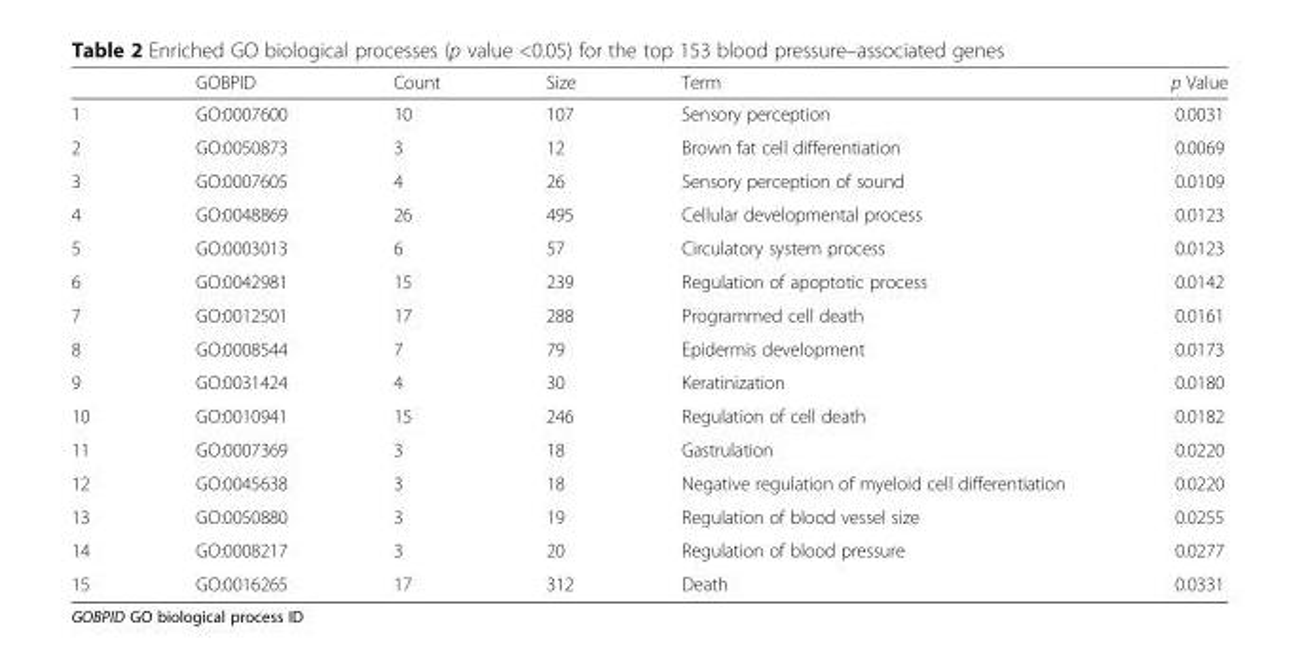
<table><thead><tr><td></td><td>GOBPID</td><td>Count</td><td>Size</td><td>Term</td><td>p Value</td></tr></thead><tbody><tr><td>1</td><td>GO:0007600</td><td>10</td><td>107</td><td>Sensory perception</td><td>0.0031</td></tr><tr><td>2</td><td>GO:0050873</td><td>3</td><td>12</td><td>Brown fat cell differentiation</td><td>0.0069</td></tr><tr><td>3</td><td>GO:0007605</td><td>4</td><td>26</td><td>Sensory perception of sound</td><td>0.0109</td></tr><tr><td>4</td><td>GO:0048869</td><td>26</td><td>495</td><td>Cellular developmental process</td><td>0.0123</td></tr><tr><td>5</td><td>GO:0003013</td><td>6</td><td>57</td><td>Circulatory system process</td><td>0.0123</td></tr><tr><td>6</td><td>GO:0042981</td><td>15</td><td>239</td><td>Regulation of apoptotic process</td><td>0.0142</td></tr><tr><td>7</td><td>GO:0012501</td><td>17</td><td>288</td><td>Programmed cell death</td><td>0.0161</td></tr><tr><td>8</td><td>GO:0008544</td><td>7</td><td>79</td><td>Epidermis development</td><td>0.0173</td></tr><tr><td>9</td><td>GO:0031424</td><td>4</td><td>30</td><td>Keratinization</td><td>0.0180</td></tr><tr><td>10</td><td>GO:0010941</td><td>15</td><td>246</td><td>Regulation of cell death</td><td>0.0182</td></tr><tr><td>11</td><td>GO:0007369</td><td>3</td><td>18</td><td>Gastrulation</td><td>0.0220</td></tr><tr><td>12</td><td>GO:0045638</td><td>3</td><td>18</td><td>Negative regulation of myeloid cell differentiation</td><td>0.0220</td></tr><tr><td>13</td><td>GO:0050880</td><td>3</td><td>19</td><td>Regulation of blood vessel size</td><td>0.0255</td></tr><tr><td>14</td><td>GO:0008217</td><td>3</td><td>20</td><td>Regulation of blood pressure</td><td>0.0277</td></tr><tr><td>15</td><td>GO:0016265</td><td>17</td><td>312</td><td>Death</td><td>0.0331</td></tr></tbody></table>